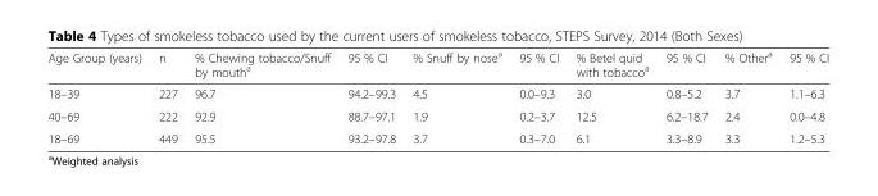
<table><thead><tr><td>Age Group (years)</td><td>n</td><td>% Chewing tobacco/Snuff by mouth<sup>a</sup></td><td>95 % CI</td><td>% Snuff by nose<sup>a</sup></td><td>95 % CI</td><td>% Betel quid with tobacco<sup>a</sup></td><td>95 % CI</td><td>% Other<sup>a</sup></td><td>95 % CI</td></tr></thead><tbody><tr><td>18–39</td><td>227</td><td>96.7</td><td>94.2–99.3</td><td>4.5</td><td>0.0–9.3</td><td>3.0</td><td>0.8–5.2</td><td>3.7</td><td>1.1–6.3</td></tr><tr><td>40–69</td><td>222</td><td>92.9</td><td>88.7–97.1</td><td>1.9</td><td>0.2–3.7</td><td>12.5</td><td>6.2–18.7</td><td>2.4</td><td>0.0–4.8</td></tr><tr><td>18–69</td><td>449</td><td>95.5</td><td>93.2–97.8</td><td>3.7</td><td>0.3–7.0</td><td>6.1</td><td>3.3–8.9</td><td>3.3</td><td>1.2–5.3</td></tr></tbody></table>